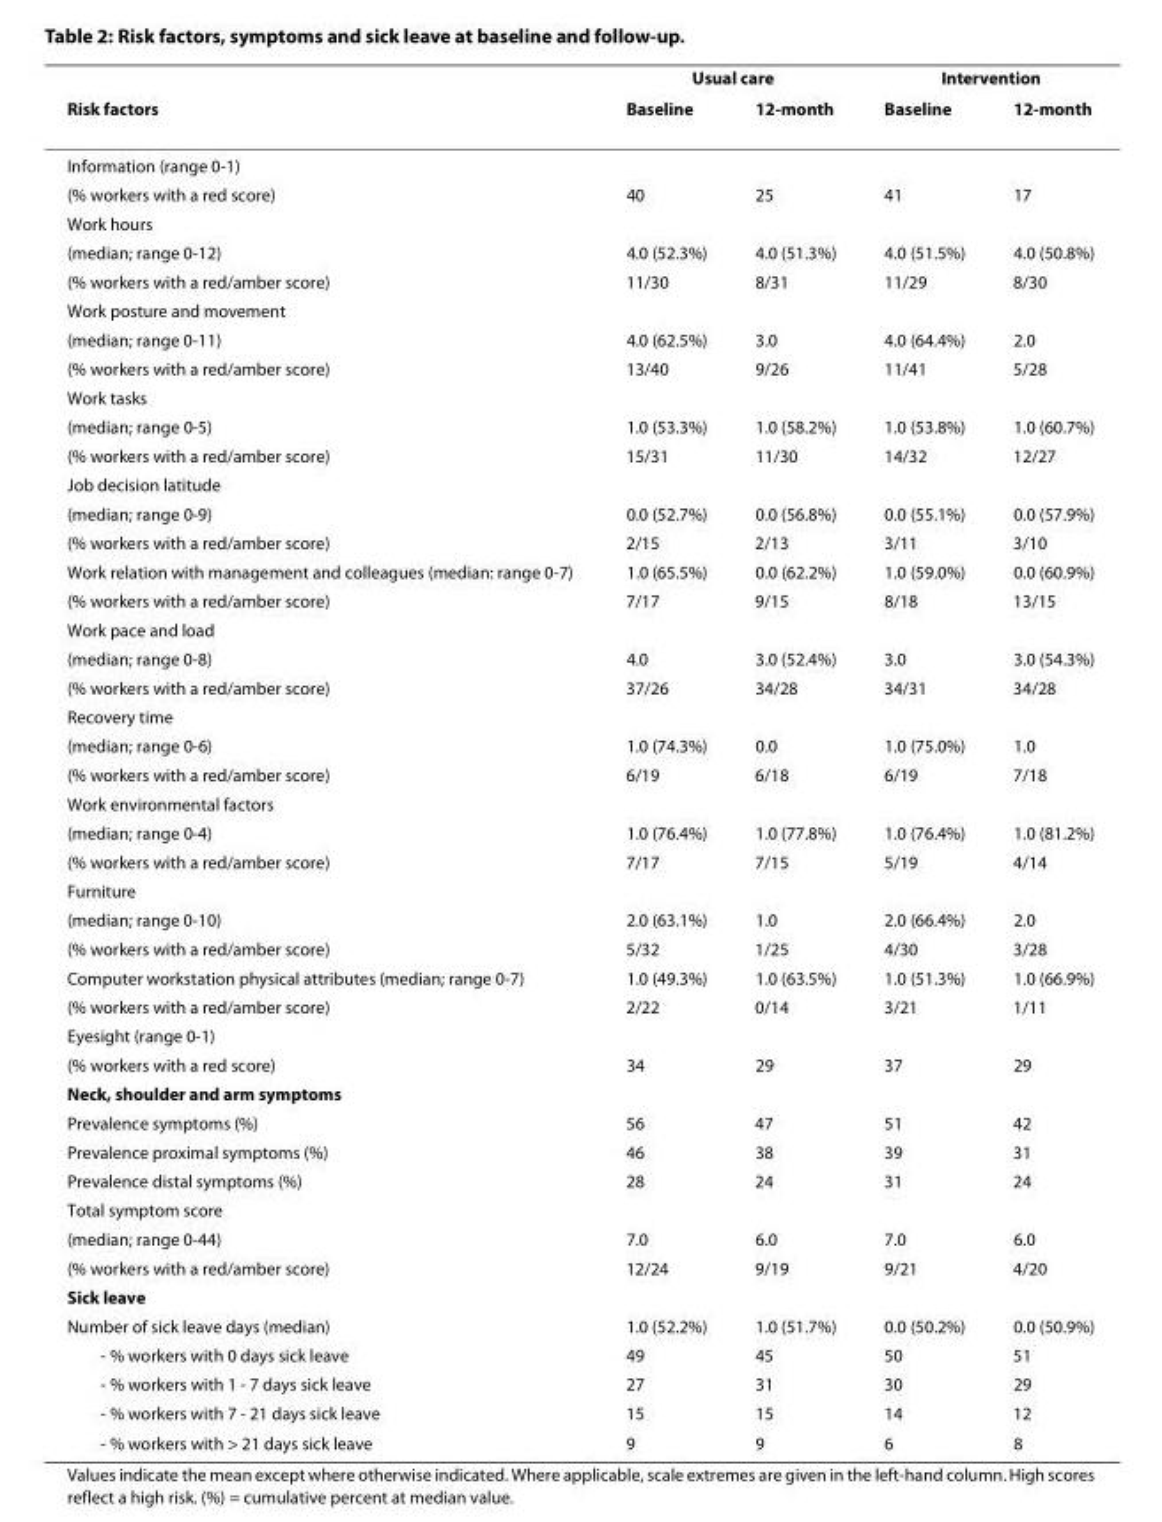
<table><thead><tr><td rowspan="2">Risk factors</td><td colspan="2">Usual care</td><td colspan="2">Intervention</td></tr><tr><td>Baseline</td><td>12-month</td><td>Baseline</td><td>12-month</td></tr></thead><tbody><tr><td colspan="5">Information (range 0-1)</td></tr><tr><td>(% workers with a red score)</td><td>40</td><td>25</td><td>41</td><td>17</td></tr><tr><td colspan="5">Work hours</td></tr><tr><td>(median; range 0-12)</td><td>4.0 (52.3%)</td><td>4.0 (51.3%)</td><td>4.0 (51.5%)</td><td>4.0 (50.8%)</td></tr><tr><td>(% workers with a red/amber score)</td><td>11/30</td><td>8/31</td><td>11/29</td><td>8/30</td></tr><tr><td colspan="5">Work posture and movement</td></tr><tr><td>(median; range 0-11)</td><td>4.0 (62.5%)</td><td>3.0</td><td>4.0 (64.4%)</td><td>2.0</td></tr><tr><td>(% workers with a red/amber score)</td><td>13/40</td><td>9/26</td><td>11/41</td><td>5/28</td></tr><tr><td colspan="5">Work tasks</td></tr><tr><td>(median; range 0-5)</td><td>1.0 (53.3%)</td><td>1.0 (58.2%)</td><td>1.0 (53.8%)</td><td>1.0 (60.7%)</td></tr><tr><td>(% workers with a red/amber score)</td><td>15/31</td><td>11/30</td><td>14/32</td><td>12/27</td></tr><tr><td colspan="5">Job decision latitude</td></tr><tr><td>(median; range 0-9)</td><td>0.0 (52.7%)</td><td>0.0 (56.8%)</td><td>0.0 (55.1%)</td><td>0.0 (57.9%)</td></tr><tr><td>(% workers with a red/amber score)</td><td>2/15</td><td>2/13</td><td>3/11</td><td>3/10</td></tr><tr><td>Work relation with management and colleagues (median: range 0-7)</td><td>1.0 (65.5%)</td><td>0.0 (62.2%)</td><td>1.0 (59.0%)</td><td>0.0 (60.9%)</td></tr><tr><td>(% workers with a red/amber score)</td><td>7/17</td><td>9/15</td><td>8/18</td><td>13/15</td></tr><tr><td colspan="5">Work pace and load</td></tr><tr><td>(median; range 0-8)</td><td>4.0</td><td>3.0 (52.4%)</td><td>3.0</td><td>3.0 (54.3%)</td></tr><tr><td>(% workers with a red/amber score)</td><td>37/26</td><td>34/28</td><td>34/31</td><td>34/28</td></tr><tr><td colspan="5">Recovery time</td></tr><tr><td>(median; range 0-6)</td><td>1.0 (74.3%)</td><td>0.0</td><td>1.0 (75.0%)</td><td>1.0</td></tr><tr><td>(% workers with a red/amber score)</td><td>6/19</td><td>6/18</td><td>6/19</td><td>7/18</td></tr><tr><td colspan="5">Work environmental factors</td></tr><tr><td>(median; range 0-4)</td><td>1.0 (76.4%)</td><td>1.0 (77.8%)</td><td>1.0 (76.4%)</td><td>1.0 (81.2%)</td></tr><tr><td>(% workers with a red/amber score)</td><td>7/17</td><td>7/15</td><td>5/19</td><td>4/14</td></tr><tr><td colspan="5">Furniture</td></tr><tr><td>(median; range 0-10)</td><td>2.0 (63.1%)</td><td>1.0</td><td>2.0 (66.4%)</td><td>2.0</td></tr><tr><td>(% workers with a red/amber score)</td><td>5/32</td><td>1/25</td><td>4/30</td><td>3/28</td></tr><tr><td>Computer workstation physical attributes (median; range 0-7)</td><td>1.0 (49.3%)</td><td>1.0 (63.5%)</td><td>1.0 (51.3%)</td><td>1.0 (66.9%)</td></tr><tr><td>(% workers with a red/amber score)</td><td>2/22</td><td>0/14</td><td>3/21</td><td>1/11</td></tr><tr><td colspan="5">Eyesight (range 0-1)</td></tr><tr><td>(% workers with a red score)</td><td>34</td><td>29</td><td>37</td><td>29</td></tr><tr><td colspan="5">Neck, shoulder and arm symptoms</td></tr><tr><td>Prevalence symptoms (%)</td><td>56</td><td>47</td><td>51</td><td>42</td></tr><tr><td>Prevalence proximal symptoms (%)</td><td>46</td><td>38</td><td>39</td><td>31</td></tr><tr><td>Prevalence distal symptoms (%)</td><td>28</td><td>24</td><td>31</td><td>24</td></tr><tr><td colspan="5">Total symptom score</td></tr><tr><td>(median; range 0-44)</td><td>7.0</td><td>6.0</td><td>7.0</td><td>6.0</td></tr><tr><td>(% workers with a red/amber score)</td><td>12/24</td><td>9/19</td><td>9/21</td><td>4/20</td></tr><tr><td colspan="5">Sick leave</td></tr><tr><td>Number of sick leave days (median)</td><td>1.0 (52.2%)</td><td>1.0 (51.7%)</td><td>0.0 (50.2%)</td><td>0.0 (50.9%)</td></tr><tr><td>- % workers with 0 days sick leave</td><td>49</td><td>45</td><td>50</td><td>51</td></tr><tr><td>- % workers with 1 - 7 days sick leave</td><td>27</td><td>31</td><td>30</td><td>29</td></tr><tr><td>- % workers with 7 - 21 days sick leave</td><td>15</td><td>15</td><td>14</td><td>12</td></tr><tr><td>- % workers with &gt; 21 days sick leave</td><td>9</td><td>9</td><td>6</td><td>8</td></tr></tbody></table>